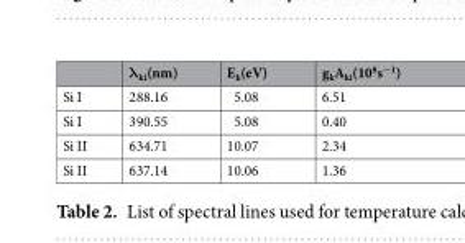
<table><thead><tr><td></td><td>λ<sub>ki</sub>(nm)</td><td>E<sub>k</sub>(eV)</td><td>g<sub>k</sub>A<sub>ki</sub>(10<sup>8</sup>s<sup>−1</sup>)</td></tr></thead><tbody><tr><td>Si I</td><td>288.16</td><td>5.08</td><td>6.51</td></tr><tr><td>Si I</td><td>390.55</td><td>5.08</td><td>0.40</td></tr><tr><td>Si II</td><td>634.71</td><td>10.07</td><td>2.34</td></tr><tr><td>Si II</td><td>637.14</td><td>10.06</td><td>1.36</td></tr></tbody></table>